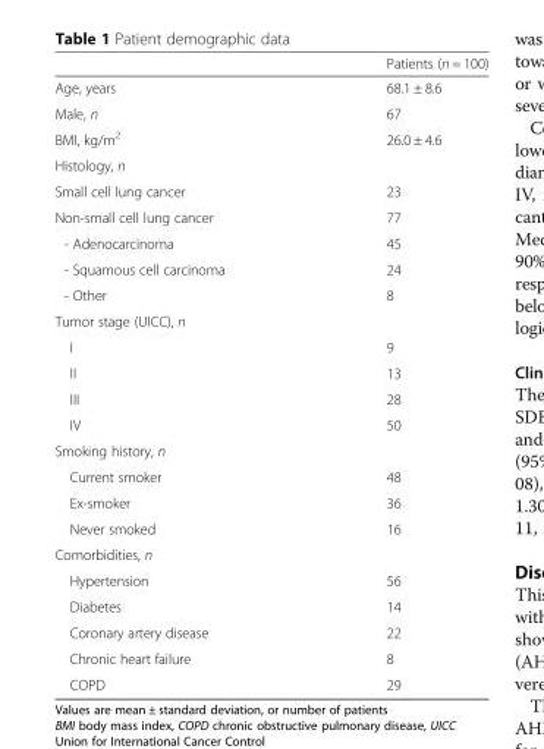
<table><thead><tr><td></td><td>Patients (n = 100)</td></tr></thead><tbody><tr><td>Age, years</td><td>68.1 ± 8.6</td></tr><tr><td>Male, n</td><td>67</td></tr><tr><td>BMI, kg/m<sup>2</sup></td><td>26.0 ± 4.6</td></tr><tr><td colspan="2">Histology, n</td></tr><tr><td>Small cell lung cancer</td><td>23</td></tr><tr><td>Non-small cell lung cancer</td><td>77</td></tr><tr><td>- Adenocarcinoma</td><td>45</td></tr><tr><td>- Squamous cell carcinoma</td><td>24</td></tr><tr><td>- Other</td><td>8</td></tr><tr><td colspan="2">Tumor stage (UICC), n</td></tr><tr><td>I</td><td>9</td></tr><tr><td>II</td><td>13</td></tr><tr><td>III</td><td>28</td></tr><tr><td>IV</td><td>50</td></tr><tr><td colspan="2">Smoking history, n</td></tr><tr><td>Current smoker</td><td>48</td></tr><tr><td>Ex-smoker</td><td>36</td></tr><tr><td>Never smoked</td><td>16</td></tr><tr><td colspan="2">Comorbidities, n</td></tr><tr><td>Hypertension</td><td>56</td></tr><tr><td>Diabetes</td><td>14</td></tr><tr><td>Coronary artery disease</td><td>22</td></tr><tr><td>Chronic heart failure</td><td>8</td></tr><tr><td>COPD</td><td>29</td></tr></tbody></table>